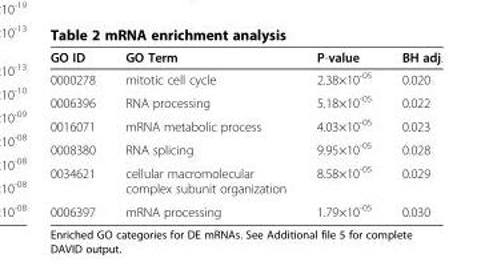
<table><thead><tr><td>GO ID</td><td>GO Term</td><td>P-value</td><td>BH adj.</td></tr></thead><tbody><tr><td>0000278</td><td>mitotic cell cycle</td><td>2.38×10<sup>-05</sup></td><td>0.020</td></tr><tr><td>0006396</td><td>RNA processing</td><td>5.18×10<sup>-05</sup></td><td>0.022</td></tr><tr><td>0016071</td><td>mRNA metabolic process</td><td>4.03×10<sup>-05</sup></td><td>0.023</td></tr><tr><td>0008380</td><td>RNA splicing</td><td>9.95×10<sup>-05</sup></td><td>0.028</td></tr><tr><td>0034621</td><td>cellular macromolecular complex subunit organization</td><td>8.58×10<sup>-05</sup></td><td>0.029</td></tr><tr><td>0006397</td><td>mRNA processing</td><td>1.79×10<sup>-05</sup></td><td>0.030</td></tr></tbody></table>